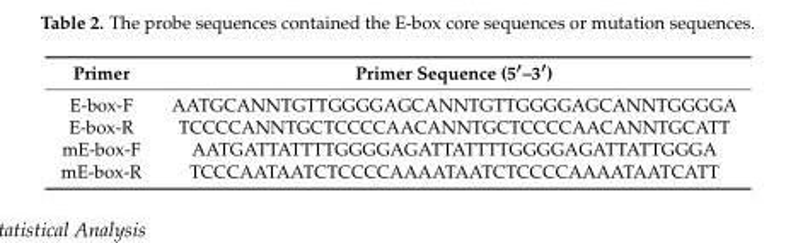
<table><thead><tr><td>Primer</td><td>Primer Sequence (5′–3′)</td></tr></thead><tbody><tr><td>E-box-F</td><td>AATGCANNTGTTGGGGAGCANNTGTTGGGGAGCANNTGGGGA</td></tr><tr><td>E-box-R</td><td>TCCCCANNTGCTCCCCAACANNTGCTCCCCAACANNTGCATT</td></tr><tr><td>mE-box-F</td><td>AATGATTATTTTGGGGAGATTATTTTGGGGAGATTATTGGGA</td></tr><tr><td>mE-box-R</td><td>TCCCAATAATCTCCCCAAAATAATCTCCCCAAAATAATCATT</td></tr></tbody></table>